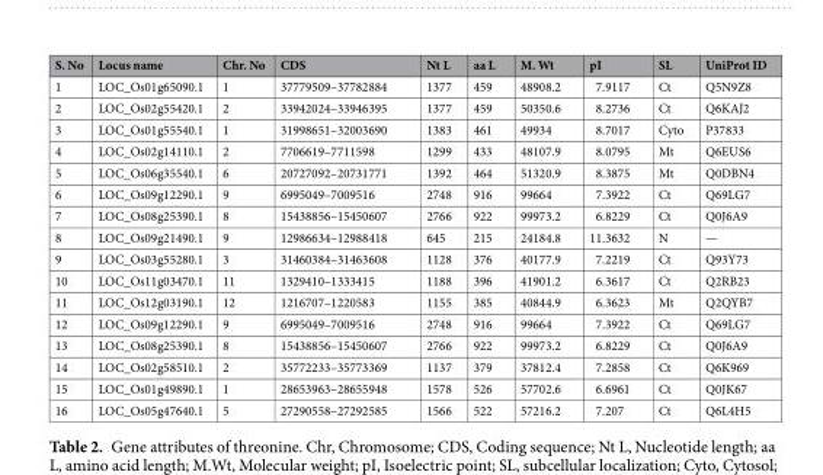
<table><thead><tr><td>S. No</td><td>Locus name</td><td>Chr. No</td><td>CDS</td><td>Nt L</td><td>aa L</td><td>M. Wt</td><td>pI</td><td>SL</td><td>UniProt ID</td></tr></thead><tbody><tr><td>1</td><td>LOC_Os01g65090.1</td><td>1</td><td>37779509–37782884</td><td>1377</td><td>459</td><td>48908.2</td><td>7.9117</td><td>Ct</td><td>Q5N9Z8</td></tr><tr><td>2</td><td>LOC_Os02g55420.1</td><td>2</td><td>33942024–33946395</td><td>1377</td><td>459</td><td>50350.6</td><td>8.2736</td><td>Ct</td><td>Q6KAJ2</td></tr><tr><td>3</td><td>LOC_Os01g55540.1</td><td>1</td><td>31998651–32003690</td><td>1383</td><td>461</td><td>49934</td><td>8.7017</td><td>Cyto</td><td>P37833</td></tr><tr><td>4</td><td>LOC_Os02g14110.1</td><td>2</td><td>7706619–7711598</td><td>1299</td><td>433</td><td>48107.9</td><td>8.0795</td><td>Mt</td><td>Q6EUS6</td></tr><tr><td>5</td><td>LOC_Os06g35540.1</td><td>6</td><td>20727092–20731771</td><td>1392</td><td>464</td><td>51320.9</td><td>8.3875</td><td>Mt</td><td>Q0DBN4</td></tr><tr><td>6</td><td>LOC_Os09g12290.1</td><td>9</td><td>6995049–7009516</td><td>2748</td><td>916</td><td>99664</td><td>7.3922</td><td>Ct</td><td>Q69LG7</td></tr><tr><td>7</td><td>LOC_Os08g25390.1</td><td>8</td><td>15438856–15450607</td><td>2766</td><td>922</td><td>99973.2</td><td>6.8229</td><td>Ct</td><td>Q0J6A9</td></tr><tr><td>8</td><td>LOC_Os09g21490.1</td><td>9</td><td>12986634–12988418</td><td>645</td><td>215</td><td>24184.8</td><td>11.3632</td><td>N</td><td>—</td></tr><tr><td>9</td><td>LOC_Os03g55280.1</td><td>3</td><td>31460384–31463608</td><td>1128</td><td>376</td><td>40177.9</td><td>7.2219</td><td>Ct</td><td>Q93Y73</td></tr><tr><td>10</td><td>LOC_Os11g03470.1</td><td>11</td><td>1329410–1333415</td><td>1188</td><td>396</td><td>41901.2</td><td>6.3617</td><td>Ct</td><td>Q2RB23</td></tr><tr><td>11</td><td>LOC_Os12g03190.1</td><td>12</td><td>1216707–1220583</td><td>1155</td><td>385</td><td>40844.9</td><td>6.3623</td><td>Mt</td><td>Q2QYB7</td></tr><tr><td>12</td><td>LOC_Os09g12290.1</td><td>9</td><td>6995049–7009516</td><td>2748</td><td>916</td><td>99664</td><td>7.3922</td><td>Ct</td><td>Q69LG7</td></tr><tr><td>13</td><td>LOC_Os08g25390.1</td><td>8</td><td>15438856–15450607</td><td>2766</td><td>922</td><td>99973.2</td><td>6.8229</td><td>Ct</td><td>Q0J6A9</td></tr><tr><td>14</td><td>LOC_Os02g58510.1</td><td>2</td><td>35772233–35773369</td><td>1137</td><td>379</td><td>37812.4</td><td>7.2858</td><td>Ct</td><td>Q6K969</td></tr><tr><td>15</td><td>LOC_Os01g49890.1</td><td>1</td><td>28653963–28655948</td><td>1578</td><td>526</td><td>57702.6</td><td>6.6961</td><td>Ct</td><td>Q0JK67</td></tr><tr><td>16</td><td>LOC_Os05g47640.1</td><td>5</td><td>27290558–27292585</td><td>1566</td><td>522</td><td>57216.2</td><td>7.207</td><td>Ct</td><td>Q6L4H5</td></tr></tbody></table>